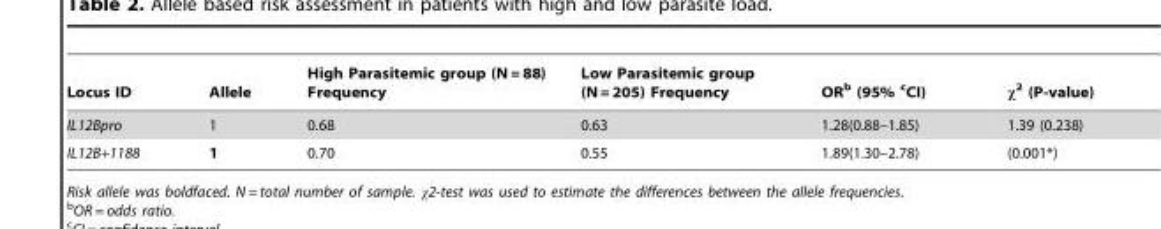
<table><thead><tr><td>Locus ID</td><td>Allele</td><td>High Parasitemic group (N = 88) Frequency</td><td>Low Parasitemic group (N = 205) Frequency</td><td>OR<sup>b</sup> (95% cCI)</td><td>χ<sup>2</sup> (P-value)</td></tr></thead><tbody><tr><td>IL12Bpro</td><td>1</td><td>0.68</td><td>0.63</td><td>1.28(0.88–1.85)</td><td>1.39 (0.238)</td></tr><tr><td>IL12B+1188</td><td>1</td><td>0.70</td><td>0.55</td><td>1.89(1.30–2.78)</td><td>(0.001*)</td></tr></tbody></table>